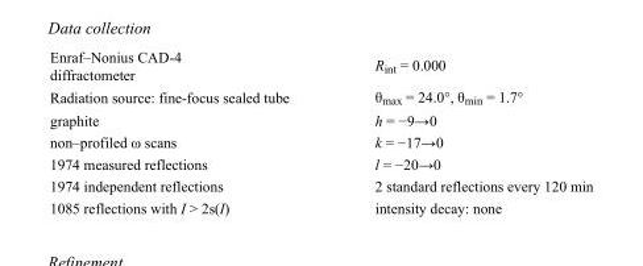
<table><tbody><tr><td>Enraf–Nonius CAD-4 diffractometer</td><td>R<sub>int</sub> = 0.000</td></tr><tr><td>Radiation source: fine-focus sealed tube</td><td>θ<sub>max</sub> = 24.0°, θ<sub>min</sub> = 1.7°</td></tr><tr><td>graphite</td><td>h = −9→0</td></tr><tr><td>non–profiled ω scans</td><td>k = −17→0</td></tr><tr><td>1974 measured reflections</td><td>l = −20→0</td></tr><tr><td>1974 independent reflections</td><td>2 standard reflections every 120 min</td></tr><tr><td>1085 reflections with I &gt; 2s(I)</td><td>intensity decay: none</td></tr></tbody></table>